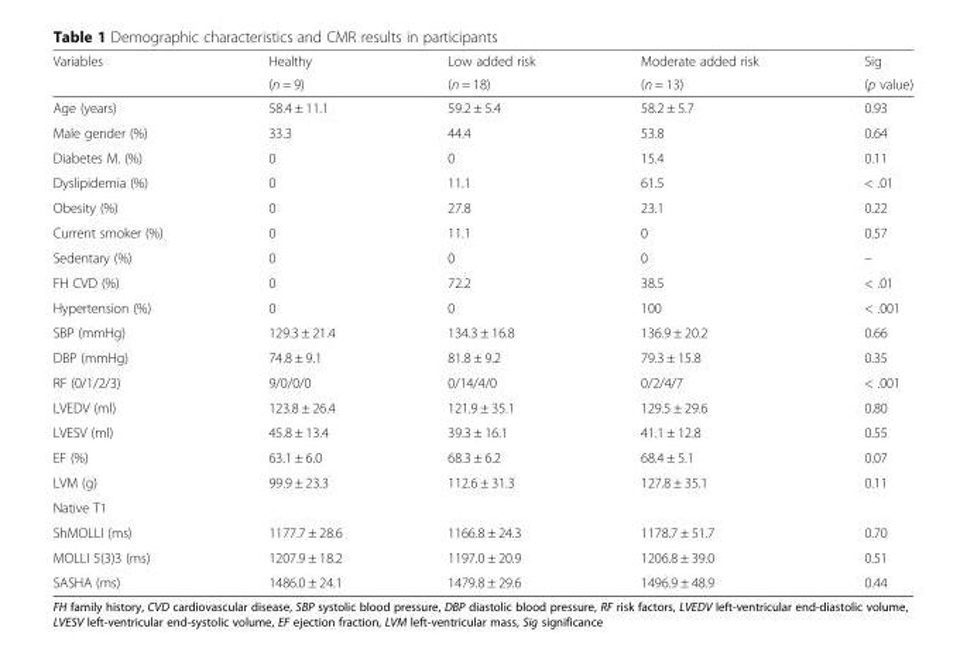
<table><thead><tr><td rowspan="2">Variables</td><td rowspan="2">Healthy (n = 9)</td><td rowspan="2">Low added risk (n = 18)</td><td rowspan="2">Moderate added risk (n = 13)</td><td rowspan="2">Sig (p value)</td></tr><tr></tr></thead><tbody><tr><td>Age (years)</td><td>58.4 ± 11.1</td><td>59.2 ± 5.4</td><td>58.2 ± 5.7</td><td>0.93</td></tr><tr><td>Male gender (%)</td><td>33.3</td><td>44.4</td><td>53.8</td><td>0.64</td></tr><tr><td>Diabetes M. (%)</td><td>0</td><td>0</td><td>15.4</td><td>0.11</td></tr><tr><td>Dyslipidemia (%)</td><td>0</td><td>11.1</td><td>61.5</td><td>&lt; .01</td></tr><tr><td>Obesity (%)</td><td>0</td><td>27.8</td><td>23.1</td><td>0.22</td></tr><tr><td>Current smoker (%)</td><td>0</td><td>11.1</td><td>0</td><td>0.57</td></tr><tr><td>Sedentary (%)</td><td>0</td><td>0</td><td>0</td><td>–</td></tr><tr><td>FH CVD (%)</td><td>0</td><td>72.2</td><td>38.5</td><td>&lt; .01</td></tr><tr><td>Hypertension (%)</td><td>0</td><td>0</td><td>100</td><td>&lt; .001</td></tr><tr><td>SBP (mmHg)</td><td>129.3 ± 21.4</td><td>134.3 ± 16.8</td><td>136.9 ± 20.2</td><td>0.66</td></tr><tr><td>DBP (mmHg)</td><td>74.8 ± 9.1</td><td>81.8 ± 9.2</td><td>79.3 ± 15.8</td><td>0.35</td></tr><tr><td>RF (0/1/2/3)</td><td>9/0/0/0</td><td>0/14/4/0</td><td>0/2/4/7</td><td>&lt; .001</td></tr><tr><td>LVEDV (ml)</td><td>123.8 ± 26.4</td><td>121.9 ± 35.1</td><td>129.5 ± 29.6</td><td>0.80</td></tr><tr><td>LVESV (ml)</td><td>45.8 ± 13.4</td><td>39.3 ± 16.1</td><td>41.1 ± 12.8</td><td>0.55</td></tr><tr><td>EF (%)</td><td>63.1 ± 6.0</td><td>68.3 ± 6.2</td><td>68.4 ± 5.1</td><td>0.07</td></tr><tr><td>LVM (g)</td><td>99.9 ± 23.3</td><td>112.6 ± 31.3</td><td>127.8 ± 35.1</td><td>0.11</td></tr><tr><td colspan="5">Native T1</td></tr><tr><td>ShMOLLI (ms)</td><td>1177.7 ± 28.6</td><td>1166.8 ± 24.3</td><td>1178.7 ± 51.7</td><td>0.70</td></tr><tr><td>MOLLI 5(3)3 (ms)</td><td>1207.9 ± 18.2</td><td>1197.0 ± 20.9</td><td>1206.8 ± 39.0</td><td>0.51</td></tr><tr><td>SASHA (ms)</td><td>1486.0 ± 24.1</td><td>1479.8 ± 29.6</td><td>1496.9 ± 48.9</td><td>0.44</td></tr></tbody></table>